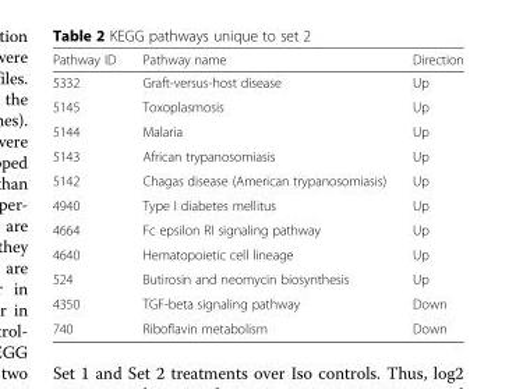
<table><thead><tr><td>Pathway ID</td><td>Pathway name</td><td>Direction</td></tr></thead><tbody><tr><td>5332</td><td>Graft-versus-host disease</td><td>Up</td></tr><tr><td>5145</td><td>Toxoplasmosis</td><td>Up</td></tr><tr><td>5144</td><td>Malaria</td><td>Up</td></tr><tr><td>5143</td><td>African trypanosomiasis</td><td>Up</td></tr><tr><td>5142</td><td>Chagas disease (American trypanosomiasis)</td><td>Up</td></tr><tr><td>4940</td><td>Type I diabetes mellitus</td><td>Up</td></tr><tr><td>4664</td><td>Fc epsilon RI signaling pathway</td><td>Up</td></tr><tr><td>4640</td><td>Hematopoietic cell lineage</td><td>Up</td></tr><tr><td>524</td><td>Butirosin and neomycin biosynthesis</td><td>Up</td></tr><tr><td>4350</td><td>TGF-beta signaling pathway</td><td>Down</td></tr><tr><td>740</td><td>Riboflavin metabolism</td><td>Down</td></tr></tbody></table>